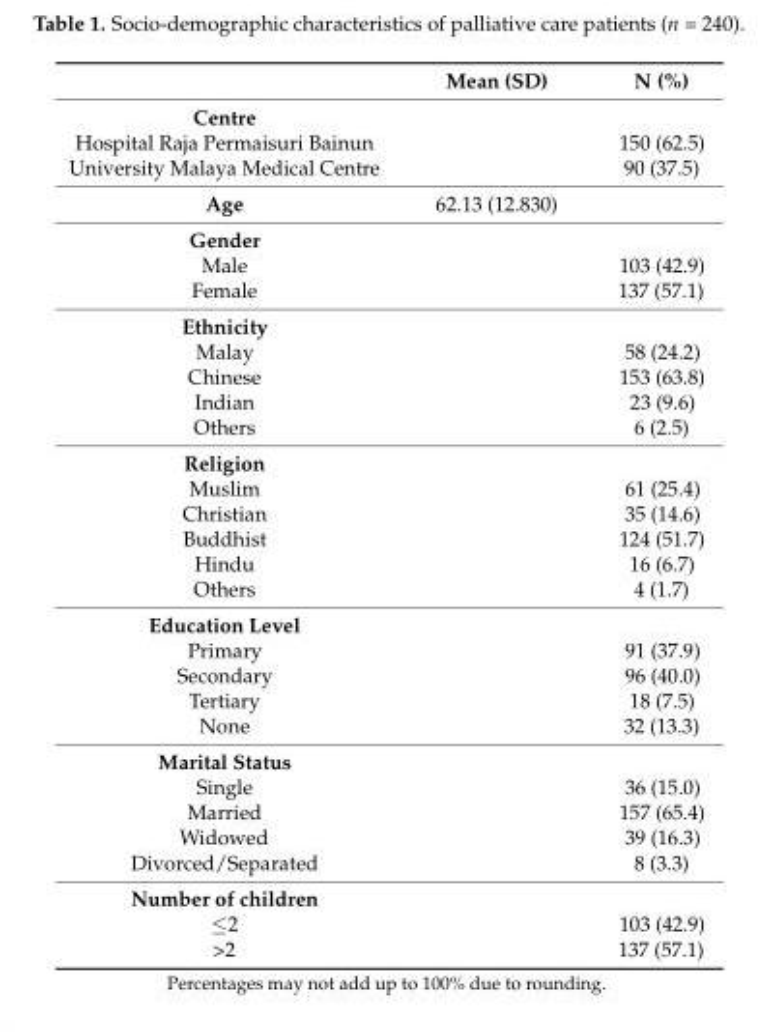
<table><thead><tr><td></td><td>Mean (SD)</td><td>N (%)</td></tr></thead><tbody><tr><td>Centre Hospital Raja Permaisuri Bainun University Malaya Medical Centre</td><td></td><td>150 (62.5) 90 (37.5)</td></tr><tr><td>Age</td><td>62.13 (12.830)</td><td></td></tr><tr><td>Gender Male Female</td><td></td><td>103 (42.9) 137 (57.1)</td></tr><tr><td>Ethnicity Malay Chinese Indian Others</td><td></td><td>58 (24.2) 153 (63.8) 23 (9.6) 6 (2.5)</td></tr><tr><td>Religion Muslim Christian Buddhist Hindu Others</td><td></td><td>61 (25.4) 35 (14.6) 124 (51.7) 16 (6.7) 4 (1.7)</td></tr><tr><td>Education Level Primary Secondary Tertiary None</td><td></td><td>91 (37.9) 96 (40.0) 18 (7.5) 32 (13.3)</td></tr><tr><td>Marital Status Single Married Widowed Divorced/Separated</td><td></td><td>36 (15.0) 157 (65.4) 39 (16.3) 8 (3.3)</td></tr><tr><td>Number of children ≤2 &gt;2</td><td></td><td>103 (42.9) 137 (57.1)</td></tr></tbody></table>